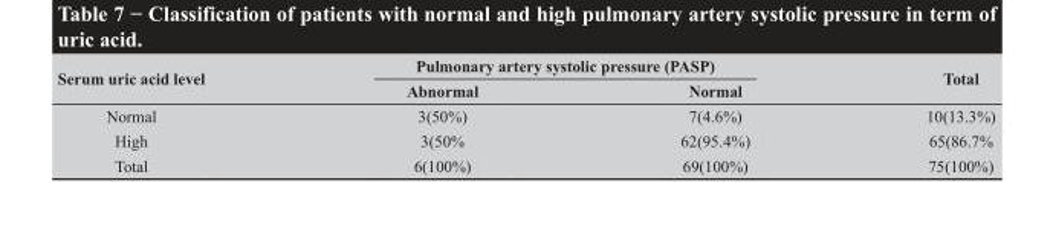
<table><thead><tr><td rowspan="2">Serum uric acid level</td><td colspan="2">Pulmonary artery systolic pressure (PASP)</td><td rowspan="2">Total</td></tr><tr><td>Abnormal</td><td>Normal</td></tr></thead><tbody><tr><td>Normal</td><td>3(50%)</td><td>7(4.6%)</td><td>10(13.3%)</td></tr><tr><td>High</td><td>3(50%</td><td>62(95.4%)</td><td>65(86.7%</td></tr><tr><td>Total</td><td>6(100%)</td><td>69(100%)</td><td>75(100%)</td></tr></tbody></table>